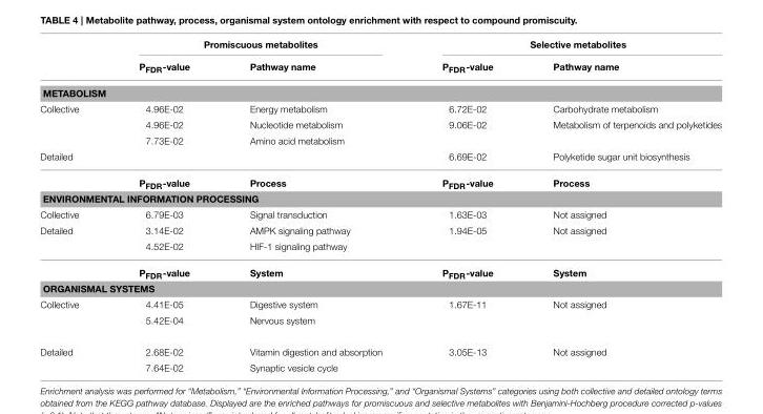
<table><thead><tr><td rowspan="2"></td><td colspan="2">Promiscuous metabolites</td><td colspan="2">Selective metabolites</td></tr><tr><td>P<sub>FDR</sub>-value</td><td>Pathway name</td><td>P<sub>FDR</sub>-value</td><td>Pathway name</td></tr></thead><tbody><tr><td colspan="5">METABOLISM</td></tr><tr><td rowspan="3">Collective</td><td>4.96E-02</td><td>Energy metabolism</td><td>6.72E-02</td><td>Carbohydrate metabolism</td></tr><tr><td>4.96E-02</td><td>Nucleotide metabolism</td><td>9.06E-02</td><td>Metabolism of terpenoids and polyketides</td></tr><tr><td>7.73E-02</td><td>Amino acid metabolism</td><td></td><td></td></tr><tr><td rowspan="2">Detailed</td><td></td><td></td><td>6.69E-02</td><td>Polyketide sugar unit biosynthesis</td></tr><tr><td>P<sub>FDR</sub>-value</td><td>Process</td><td>P<sub>FDR</sub>-value</td><td>Process</td></tr><tr><td colspan="5">ENVIRONMENTAL INFORMATION PROCESSING</td></tr><tr><td>Collective</td><td>6.79E-03</td><td>Signal transduction</td><td>1.63E-03</td><td>Not assigned</td></tr><tr><td rowspan="3">Detailed</td><td>3.14E-02</td><td>AMPK signaling pathway</td><td>1.94E-05</td><td>Not assigned</td></tr><tr><td>4.52E-02</td><td>HIF-1 signaling pathway</td><td></td><td></td></tr><tr><td>P<sub>FDR</sub>-value</td><td>System</td><td>P<sub>FDR</sub>-value</td><td>System</td></tr><tr><td colspan="5">ORGANISMAL SYSTEMS</td></tr><tr><td rowspan="2">Collective</td><td>4.41E-05</td><td>Digestive system</td><td>1.67E-11</td><td>Not assigned</td></tr><tr><td>5.42E-04</td><td>Nervous system</td><td></td><td></td></tr><tr><td rowspan="2">Detailed</td><td>2.68E-02</td><td>Vitamin digestion and absorption</td><td>3.05E-13</td><td>Not assigned</td></tr><tr><td>7.64E-02</td><td>Synaptic vesicle cycle</td><td></td><td></td></tr></tbody></table>